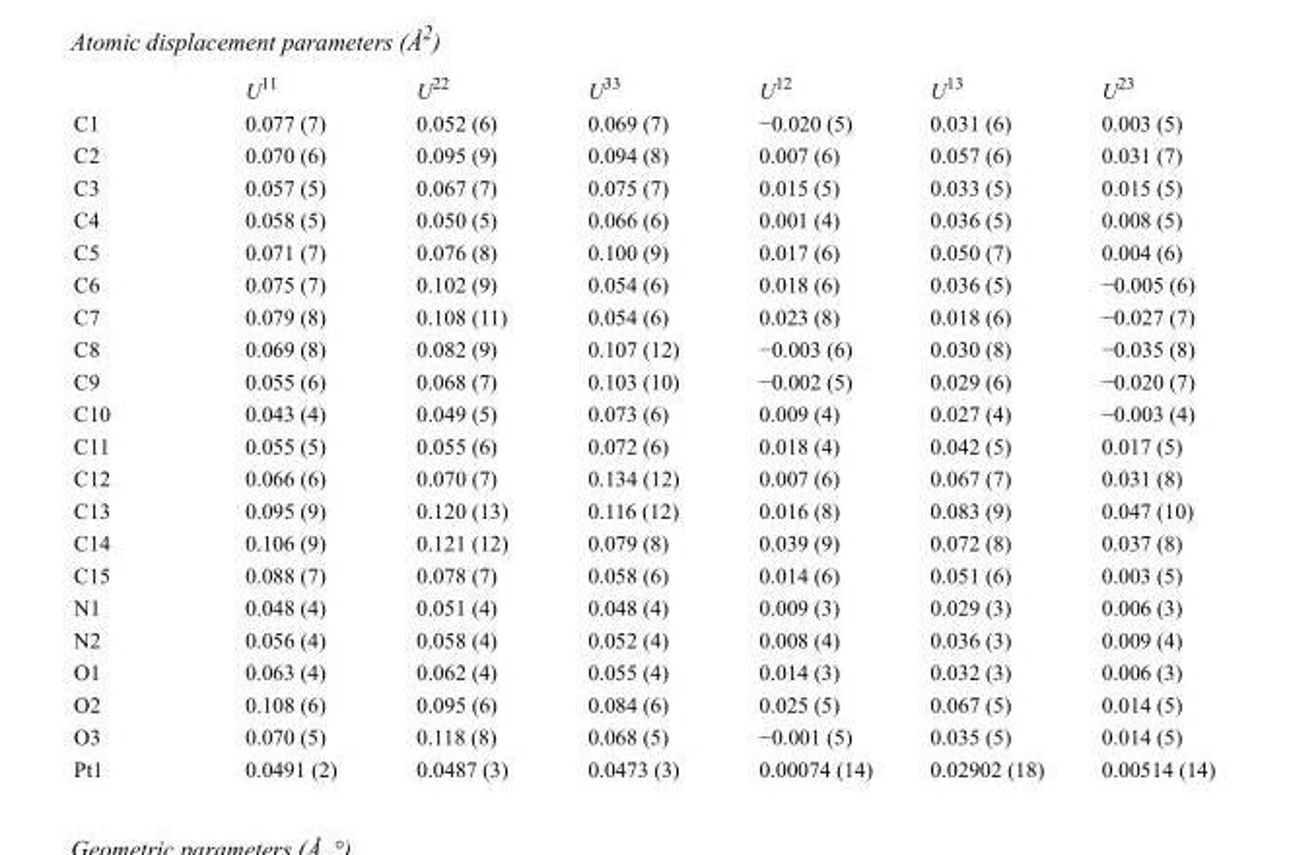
<table><thead><tr><td></td><td>U<sup>11</sup></td><td>U<sup>22</sup></td><td>U<sup>33</sup></td><td>U<sup>12</sup></td><td>U<sup>13</sup></td><td>U<sup>23</sup></td></tr></thead><tbody><tr><td>C1</td><td>0.077 (7)</td><td>0.052 (6)</td><td>0.069 (7)</td><td>−0.020 (5)</td><td>0.031 (6)</td><td>0.003 (5)</td></tr><tr><td>C2</td><td>0.070 (6)</td><td>0.095 (9)</td><td>0.094 (8)</td><td>0.007 (6)</td><td>0.057 (6)</td><td>0.031 (7)</td></tr><tr><td>C3</td><td>0.057 (5)</td><td>0.067 (7)</td><td>0.075 (7)</td><td>0.015 (5)</td><td>0.033 (5)</td><td>0.015 (5)</td></tr><tr><td>C4</td><td>0.058 (5)</td><td>0.050 (5)</td><td>0.066 (6)</td><td>0.001 (4)</td><td>0.036 (5)</td><td>0.008 (5)</td></tr><tr><td>C5</td><td>0.071 (7)</td><td>0.076 (8)</td><td>0.100 (9)</td><td>0.017 (6)</td><td>0.050 (7)</td><td>0.004 (6)</td></tr><tr><td>C6</td><td>0.075 (7)</td><td>0.102 (9)</td><td>0.054 (6)</td><td>0.018 (6)</td><td>0.036 (5)</td><td>−0.005 (6)</td></tr><tr><td>C7</td><td>0.079 (8)</td><td>0.108 (11)</td><td>0.054 (6)</td><td>0.023 (8)</td><td>0.018 (6)</td><td>−0.027 (7)</td></tr><tr><td>C8</td><td>0.069 (8)</td><td>0.082 (9)</td><td>0.107 (12)</td><td>−0.003 (6)</td><td>0.030 (8)</td><td>−0.035 (8)</td></tr><tr><td>C9</td><td>0.055 (6)</td><td>0.068 (7)</td><td>0.103 (10)</td><td>−0.002 (5)</td><td>0.029 (6)</td><td>−0.020 (7)</td></tr><tr><td>C10</td><td>0.043 (4)</td><td>0.049 (5)</td><td>0.073 (6)</td><td>0.009 (4)</td><td>0.027 (4)</td><td>−0.003 (4)</td></tr><tr><td>C11</td><td>0.055 (5)</td><td>0.055 (6)</td><td>0.072 (6)</td><td>0.018 (4)</td><td>0.042 (5)</td><td>0.017 (5)</td></tr><tr><td>C12</td><td>0.066 (6)</td><td>0.070 (7)</td><td>0.134 (12)</td><td>0.007 (6)</td><td>0.067 (7)</td><td>0.031 (8)</td></tr><tr><td>C13</td><td>0.095 (9)</td><td>0.120 (13)</td><td>0.116 (12)</td><td>0.016 (8)</td><td>0.083 (9)</td><td>0.047 (10)</td></tr><tr><td>C14</td><td>0.106 (9)</td><td>0.121 (12)</td><td>0.079 (8)</td><td>0.039 (9)</td><td>0.072 (8)</td><td>0.037 (8)</td></tr><tr><td>C15</td><td>0.088 (7)</td><td>0.078 (7)</td><td>0.058 (6)</td><td>0.014 (6)</td><td>0.051 (6)</td><td>0.003 (5)</td></tr><tr><td>N1</td><td>0.048 (4)</td><td>0.051 (4)</td><td>0.048 (4)</td><td>0.009 (3)</td><td>0.029 (3)</td><td>0.006 (3)</td></tr><tr><td>N2</td><td>0.056 (4)</td><td>0.058 (4)</td><td>0.052 (4)</td><td>0.008 (4)</td><td>0.036 (3)</td><td>0.009 (4)</td></tr><tr><td>O1</td><td>0.063 (4)</td><td>0.062 (4)</td><td>0.055 (4)</td><td>0.014 (3)</td><td>0.032 (3)</td><td>0.006 (3)</td></tr><tr><td>O2</td><td>0.108 (6)</td><td>0.095 (6)</td><td>0.084 (6)</td><td>0.025 (5)</td><td>0.067 (5)</td><td>0.014 (5)</td></tr><tr><td>O3</td><td>0.070 (5)</td><td>0.118 (8)</td><td>0.068 (5)</td><td>−0.001 (5)</td><td>0.035 (5)</td><td>0.014 (5)</td></tr><tr><td>Pt1</td><td>0.0491 (2)</td><td>0.0487 (3)</td><td>0.0473 (3)</td><td>0.00074 (14)</td><td>0.02902 (18)</td><td>0.00514 (14)</td></tr></tbody></table>